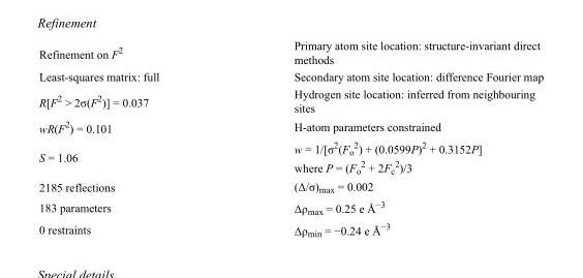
<table><tbody><tr><td>Refinement on F<sup>2</sup></td><td>Primary atom site location: structure-invariant direct methods</td></tr><tr><td>Least-squares matrix: full</td><td>Secondary atom site location: difference Fourier map</td></tr><tr><td>R[F<sup>2</sup> &gt; 2σ(F<sup>2</sup>)] = 0.037</td><td>Hydrogen site location: inferred from neighbouring sites</td></tr><tr><td>wR(F<sup>2</sup>) = 0.101</td><td>H-atom parameters constrained</td></tr><tr><td>S = 1.06</td><td>w = 1/[σ<sup>2</sup>(F<sub>o</sub> <sup>2</sup>) + (0.0599P)<sup>2</sup> + 0.3152P] where P = (F<sub>o</sub> <sup>2</sup> + 2F<sub>c</sub> <sup>2</sup>)/3</td></tr><tr><td>2185 reflections</td><td>(Δ/σ)<sub>max</sub> = 0.002</td></tr><tr><td>183 parameters</td><td>Δρ<sub>max</sub> = 0.25 e Å<sup>−3</sup></td></tr><tr><td>0 restraints</td><td>Δρ<sub>min</sub> = −0.24 e Å<sup>−3</sup></td></tr></tbody></table>